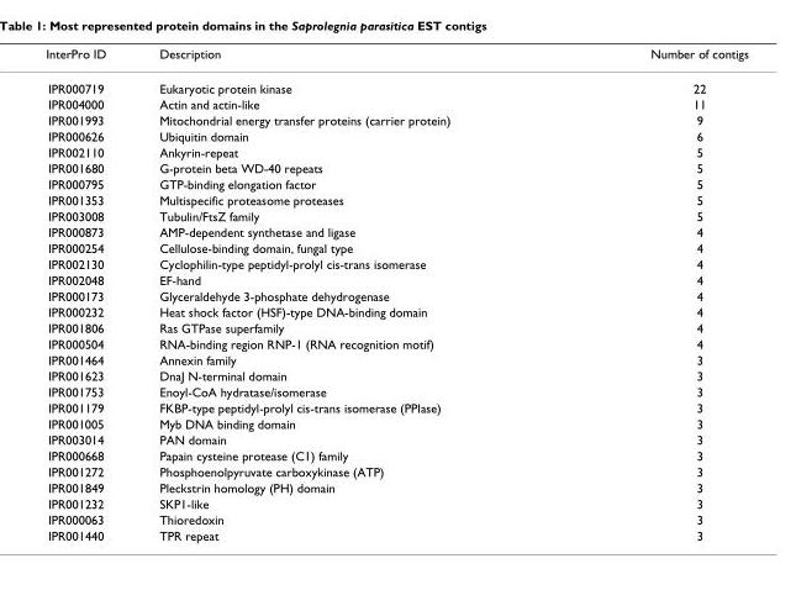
<table><thead><tr><td>InterPro ID</td><td>Description</td><td>Number of contigs</td></tr></thead><tbody><tr><td>IPR000719</td><td>Eukaryotic protein kinase</td><td>22</td></tr><tr><td>IPR004000</td><td>Actin and actin-like</td><td>11</td></tr><tr><td>IPR001993</td><td>Mitochondrial energy transfer proteins (carrier protein)</td><td>9</td></tr><tr><td>IPR000626</td><td>Ubiquitin domain</td><td>6</td></tr><tr><td>IPR002110</td><td>Ankyrin-repeat</td><td>5</td></tr><tr><td>IPR001680</td><td>G-protein beta WD-40 repeats</td><td>5</td></tr><tr><td>IPR000795</td><td>GTP-binding elongation factor</td><td>5</td></tr><tr><td>IPR001353</td><td>Multispecific proteasome proteases</td><td>5</td></tr><tr><td>IPR003008</td><td>Tubulin/FtsZ family</td><td>5</td></tr><tr><td>IPR000873</td><td>AMP-dependent synthetase and ligase</td><td>4</td></tr><tr><td>IPR000254</td><td>Cellulose-binding domain, fungal type</td><td>4</td></tr><tr><td>IPR002130</td><td>Cyclophilin-type peptidyl-prolyl cis-trans isomerase</td><td>4</td></tr><tr><td>IPR002048</td><td>EF-hand</td><td>4</td></tr><tr><td>IPR000173</td><td>Glyceraldehyde 3-phosphate dehydrogenase</td><td>4</td></tr><tr><td>IPR000232</td><td>Heat shock factor (HSF)-type DNA-binding domain</td><td>4</td></tr><tr><td>IPR001806</td><td>Ras GTPase superfamily</td><td>4</td></tr><tr><td>IPR000504</td><td>RNA-binding region RNP-1 (RNA recognition motif)</td><td>4</td></tr><tr><td>IPR001464</td><td>Annexin family</td><td>3</td></tr><tr><td>IPR001623</td><td>DnaJ N-terminal domain</td><td>3</td></tr><tr><td>IPR001753</td><td>Enoyl-CoA hydratase/isomerase</td><td>3</td></tr><tr><td>IPR001179</td><td>FKBP-type peptidyl-prolyl cis-trans isomerase (PPIase)</td><td>3</td></tr><tr><td>IPR001005</td><td>Myb DNA binding domain</td><td>3</td></tr><tr><td>IPR003014</td><td>PAN domain</td><td>3</td></tr><tr><td>IPR000668</td><td>Papain cysteine protease (C1) family</td><td>3</td></tr><tr><td>IPR001272</td><td>Phosphoenolpyruvate carboxykinase (ATP)</td><td>3</td></tr><tr><td>IPR001849</td><td>Pleckstrin homology (PH) domain</td><td>3</td></tr><tr><td>IPR001232</td><td>SKP1-like</td><td>3</td></tr><tr><td>IPR000063</td><td>Thioredoxin</td><td>3</td></tr><tr><td>IPR001440</td><td>TPR repeat</td><td>3</td></tr></tbody></table>